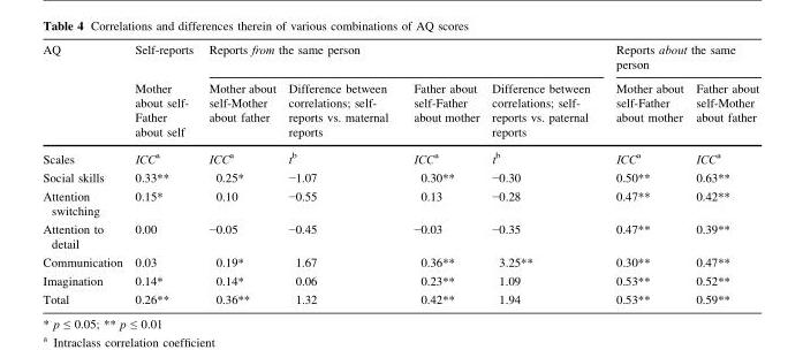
<table><thead><tr><td rowspan="2">AQ</td><td rowspan="2">Self-reports Mother about self- Father about self</td><td colspan="4">Reports from the same person</td><td colspan="2">Reports about the same person</td></tr><tr><td>Mother about self-Mother about father</td><td>Difference between correlations; self- reports vs. maternal reports</td><td>Father about self-Father about mother</td><td>Difference between correlations; self- reports vs. paternal reports</td><td>Mother about self-Father about mother</td><td>Father about self-Mother about father</td></tr></thead><tbody><tr><td>Scales</td><td>ICC<sup>a</sup></td><td>ICC<sup>a</sup></td><td>t<sup>b</sup></td><td>ICC<sup>a</sup></td><td>t<sup>b</sup></td><td>ICC<sup>a</sup></td><td>ICC<sup>a</sup></td></tr><tr><td>Social skills</td><td>0.33**</td><td>0.25*</td><td>−1.07</td><td>0.30**</td><td>−0.30</td><td>0.50**</td><td>0.63**</td></tr><tr><td>Attention switching</td><td>0.15*</td><td>0.10</td><td>−0.55</td><td>0.13</td><td>−0.28</td><td>0.47**</td><td>0.42**</td></tr><tr><td>Attention to detail</td><td>0.00</td><td>−0.05</td><td>−0.45</td><td>−0.03</td><td>−0.35</td><td>0.47**</td><td>0.39**</td></tr><tr><td>Communication</td><td>0.03</td><td>0.19*</td><td>1.67</td><td>0.36**</td><td>3.25**</td><td>0.30**</td><td>0.47**</td></tr><tr><td>Imagination</td><td>0.14*</td><td>0.14*</td><td>0.06</td><td>0.23**</td><td>1.09</td><td>0.53**</td><td>0.52**</td></tr><tr><td>Total</td><td>0.26**</td><td>0.36**</td><td>1.32</td><td>0.42**</td><td>1.94</td><td>0.53**</td><td>0.59**</td></tr></tbody></table>